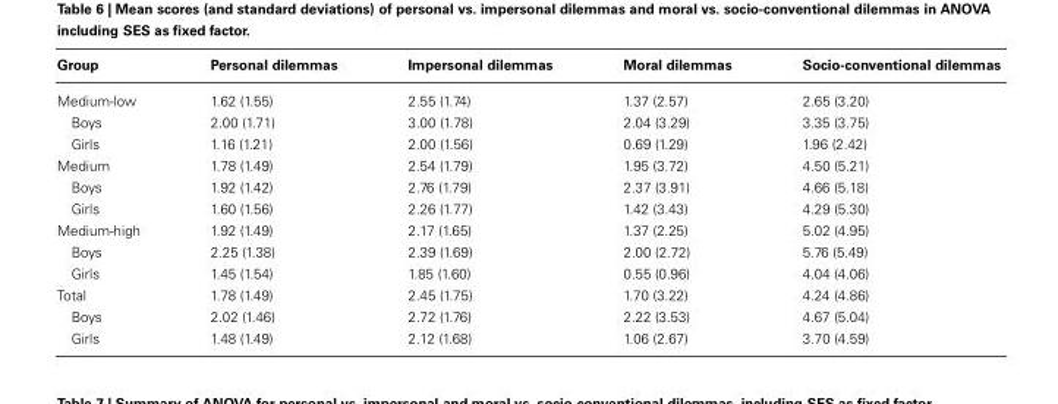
<table><thead><tr><td>Group</td><td>Personal dilemmas</td><td>Impersonal dilemmas</td><td>Moral dilemmas</td><td>Socio-conventional dilemmas</td></tr></thead><tbody><tr><td>Medium-low</td><td>1.62 (1.55)</td><td>2.55 (1.74)</td><td>1.37 (2.57)</td><td>2.65 (3.20)</td></tr><tr><td>Boys</td><td>2.00 (1.71)</td><td>3.00 (1.78)</td><td>2.04 (3.29)</td><td>3.35 (3.75)</td></tr><tr><td>Girls</td><td>1.16 (1.21)</td><td>2.00 (1.56)</td><td>0.69 (1.29)</td><td>1.96 (2.42)</td></tr><tr><td>Medium</td><td>1.78 (1.49)</td><td>2.54 (1.79)</td><td>1.95 (3.72)</td><td>4.50 (5.21)</td></tr><tr><td>Boys</td><td>1.92 (1.42)</td><td>2.76 (1.79)</td><td>2.37 (3.91)</td><td>4.66 (5.18)</td></tr><tr><td>Girls</td><td>1.60 (1.56)</td><td>2.26 (1.77)</td><td>1.42 (3.43)</td><td>4.29 (5.30)</td></tr><tr><td>Medium-high</td><td>1.92 (1.49)</td><td>2.17 (1.65)</td><td>1.37 (2.25)</td><td>5.02 (4.95)</td></tr><tr><td>Boys</td><td>2.25 (1.38)</td><td>2.39 (1.69)</td><td>2.00 (2.72)</td><td>5.76 (5.49)</td></tr><tr><td>Girls</td><td>1.45 (1.54)</td><td>1.85 (1.60)</td><td>0.55 (0.96)</td><td>4.04 (4.06)</td></tr><tr><td>Total</td><td>1.78 (1.49)</td><td>2.45 (1.75)</td><td>1.70 (3.22)</td><td>4.24 (4.86)</td></tr><tr><td>Boys</td><td>2.02 (1.46)</td><td>2.72 (1.76)</td><td>2.22 (3.53)</td><td>4.67 (5.04)</td></tr><tr><td>Girls</td><td>1.48 (1.49)</td><td>2.12 (1.68)</td><td>1.06 (2.67)</td><td>3.70 (4.59)</td></tr></tbody></table>